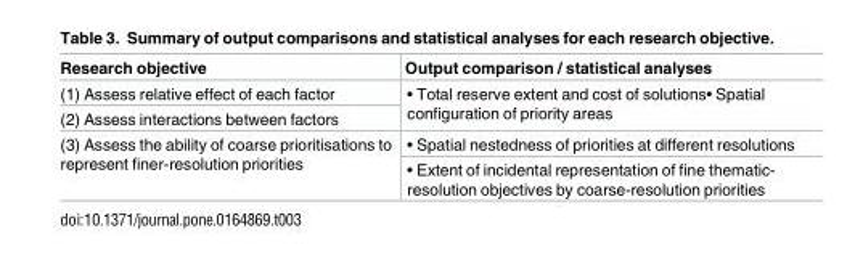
<table><thead><tr><td>Research objective</td><td>Output comparison / statistical analyses</td></tr></thead><tbody><tr><td>(1) Assess relative effect of each factor</td><td rowspan="2">• Total reserve extent and cost of solutions• Spatial configuration of priority areas</td></tr><tr><td>(2) Assess interactions between factors</td></tr><tr><td rowspan="2">(3) Assess the ability of coarse prioritisations to represent finer-resolution priorities</td><td>• Spatial nestedness of priorities at different resolutions</td></tr><tr><td>• Extent of incidental representation of fine thematic- resolution objectives by coarse-resolution priorities</td></tr></tbody></table>